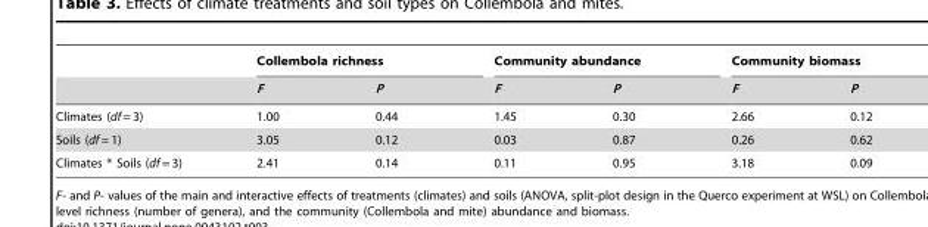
<table><thead><tr><td rowspan="2"></td><td colspan="2">Collembola richness</td><td colspan="2">Community abundance</td><td colspan="2">Community biomass</td></tr><tr><td>F</td><td>P</td><td>F</td><td>P</td><td>F</td><td>P</td></tr></thead><tbody><tr><td>Climates (df = 3)</td><td>1.00</td><td>0.44</td><td>1.45</td><td>0.30</td><td>2.66</td><td>0.12</td></tr><tr><td>Soils (df = 1)</td><td>3.05</td><td>0.12</td><td>0.03</td><td>0.87</td><td>0.26</td><td>0.62</td></tr><tr><td>Climates * Soils (df = 3)</td><td>2.41</td><td>0.14</td><td>0.11</td><td>0.95</td><td>3.18</td><td>0.09</td></tr></tbody></table>